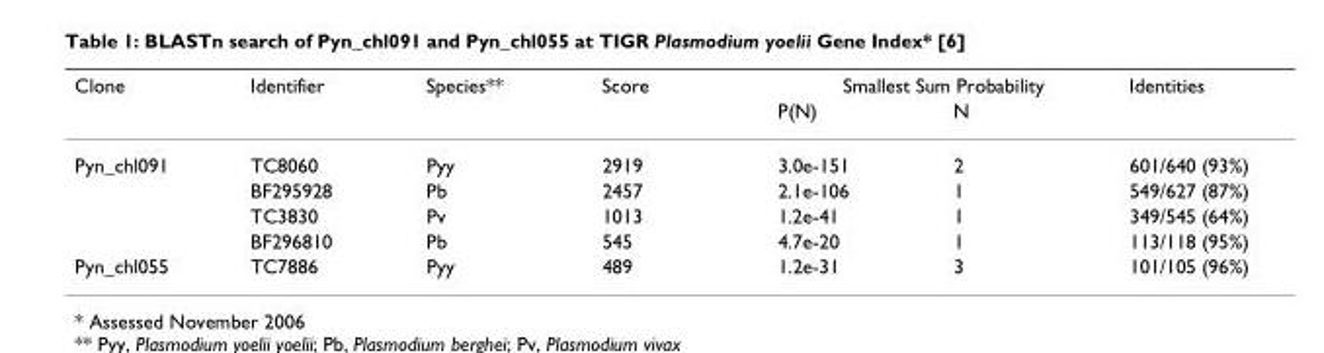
<table><thead><tr><td rowspan="2">Clone</td><td rowspan="2">Identifier</td><td rowspan="2">Species**</td><td rowspan="2">Score</td><td colspan="2">Smallest Sum Probability</td><td rowspan="2">Identities</td></tr><tr><td>P(N)</td><td>N</td></tr></thead><tbody><tr><td rowspan="4">Pyn_chl091</td><td>TC8060</td><td>Pyy</td><td>2919</td><td>3.0e-151</td><td>2</td><td>601/640 (93%)</td></tr><tr><td>BF295928</td><td>Pb</td><td>2457</td><td>2.1e-106</td><td>1</td><td>549/627 (87%)</td></tr><tr><td>TC3830</td><td>Pv</td><td>1013</td><td>1.2e-41</td><td>1</td><td>349/545 (64%)</td></tr><tr><td>BF296810</td><td>Pb</td><td>545</td><td>4.7e-20</td><td>1</td><td>113/118 (95%)</td></tr><tr><td>Pyn_chl055</td><td>TC7886</td><td>Pyy</td><td>489</td><td>1.2e-31</td><td>3</td><td>101/105 (96%)</td></tr></tbody></table>